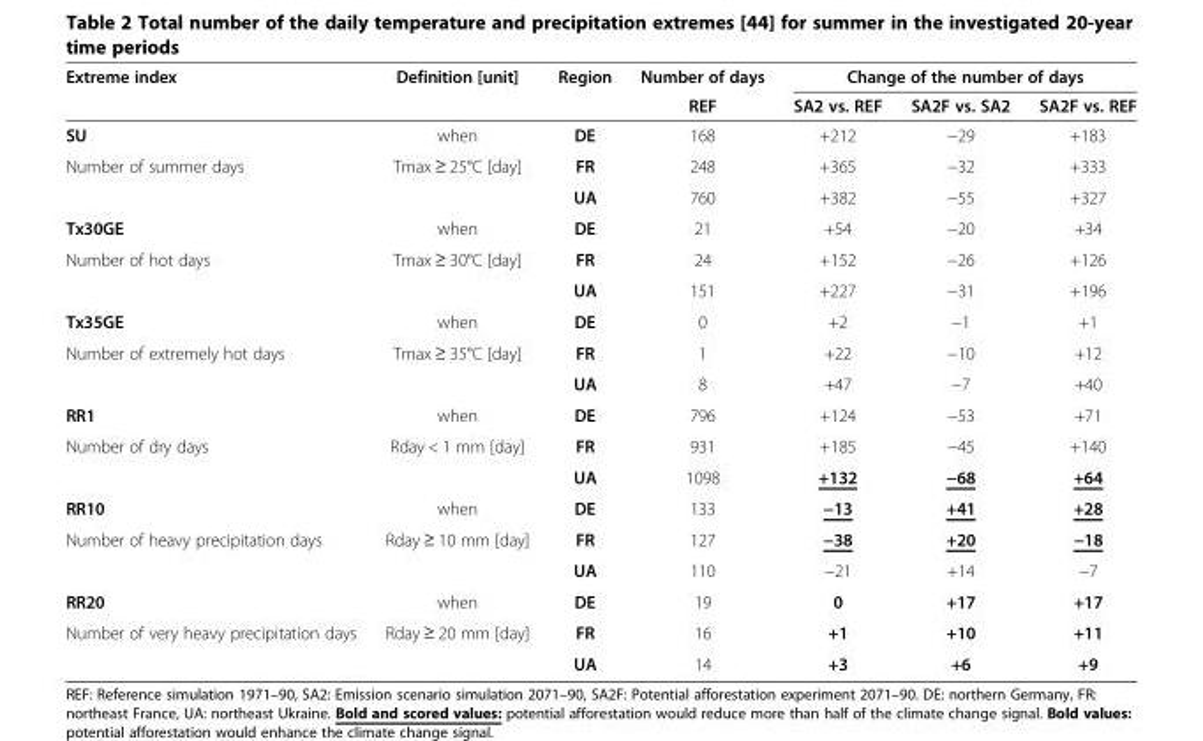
<table><thead><tr><td rowspan="2">Extreme index</td><td rowspan="2">Definition [unit]</td><td rowspan="2">Region</td><td rowspan="2">Number of days REF</td><td colspan="3">Change of the number of days</td></tr><tr><td>SA2 vs. REF</td><td>SA2F vs. SA2</td><td>SA2F vs. REF</td></tr></thead><tbody><tr><td>SU</td><td>when</td><td>DE</td><td>168</td><td>+212</td><td>−29</td><td>+183</td></tr><tr><td rowspan="2">Number of summer days</td><td>Tmax ≥ 25°C [day]</td><td>FR</td><td>248</td><td>+365</td><td>−32</td><td>+333</td></tr><tr><td></td><td>UA</td><td>760</td><td>+382</td><td>−55</td><td>+327</td></tr><tr><td>Tx30GE</td><td>when</td><td>DE</td><td>21</td><td>+54</td><td>−20</td><td>+34</td></tr><tr><td rowspan="2">Number of hot days</td><td>Tmax ≥ 30°C [day]</td><td>FR</td><td>24</td><td>+152</td><td>−26</td><td>+126</td></tr><tr><td></td><td>UA</td><td>151</td><td>+227</td><td>−31</td><td>+196</td></tr><tr><td>Tx35GE</td><td>when</td><td>DE</td><td>0</td><td>+2</td><td>−1</td><td>+1</td></tr><tr><td rowspan="2">Number of extremely hot days</td><td>Tmax ≥ 35°C [day]</td><td>FR</td><td>1</td><td>+22</td><td>−10</td><td>+12</td></tr><tr><td></td><td>UA</td><td>8</td><td>+47</td><td>−7</td><td>+40</td></tr><tr><td>RR1</td><td>when</td><td>DE</td><td>796</td><td>+124</td><td>−53</td><td>+71</td></tr><tr><td rowspan="2">Number of dry days</td><td>Rday &lt; 1 mm [day]</td><td>FR</td><td>931</td><td>+185</td><td>−45</td><td>+140</td></tr><tr><td></td><td>UA</td><td>1098</td><td>+132</td><td>−68</td><td>+64</td></tr><tr><td>RR10</td><td>when</td><td>DE</td><td>133</td><td>−13</td><td>+41</td><td>+28</td></tr><tr><td rowspan="2">Number of heavy precipitation days</td><td>Rday ≥ 10 mm [day]</td><td>FR</td><td>127</td><td>−38</td><td>+20</td><td>−18</td></tr><tr><td></td><td>UA</td><td>110</td><td>−21</td><td>+14</td><td>−7</td></tr><tr><td>RR20</td><td>when</td><td>DE</td><td>19</td><td>0</td><td>+17</td><td>+17</td></tr><tr><td rowspan="2">Number of very heavy precipitation days</td><td>Rday ≥ 20 mm [day]</td><td>FR</td><td>16</td><td>+1</td><td>+10</td><td>+11</td></tr><tr><td></td><td>UA</td><td>14</td><td>+3</td><td>+6</td><td>+9</td></tr></tbody></table>